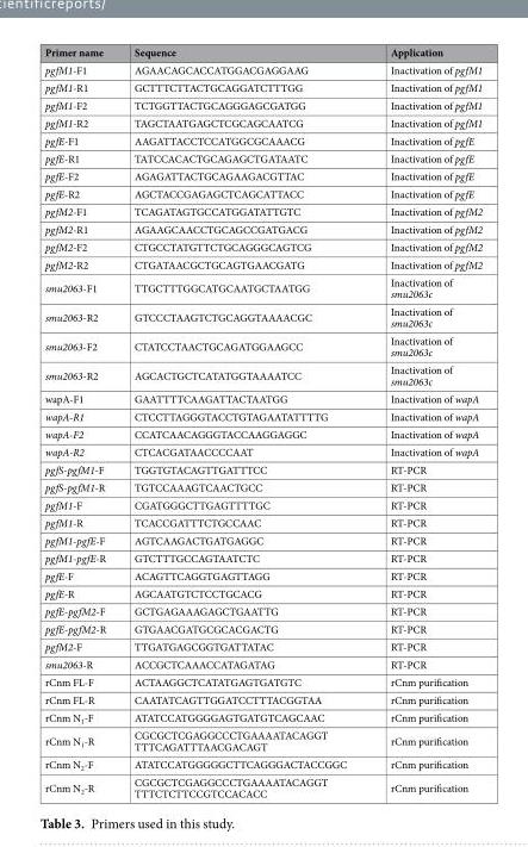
<table><thead><tr><td>Primer name</td><td>Sequence</td><td>Application</td></tr></thead><tbody><tr><td>pgfM1-F1</td><td>AGAACAGCACCATGGACGAGGAAG</td><td>Inactivation of pgfM1</td></tr><tr><td>pgfM1-R1</td><td>GCTTTCTTACTGCAGGATCTTTGG</td><td>Inactivation of pgfM1</td></tr><tr><td>pgfM1-F2</td><td>TCTGGTTACTGCAGGGAGCGATGG</td><td>Inactivation of pgfM1</td></tr><tr><td>pgfM1-R2</td><td>TAGCTAATGAGCTCGCAGCAATCG</td><td>Inactivation of pgfM1</td></tr><tr><td>pgfE-F1</td><td>AAGATTACCTCCATGGCGCAAACG</td><td>Inactivation of pgfE</td></tr><tr><td>pgfE-R1</td><td>TATCCACACTGCAGAGCTGATAATC</td><td>Inactivation of pgfE</td></tr><tr><td>pgfE-F2</td><td>AGAGATTACTGCAGAAGACGTTAC</td><td>Inactivation of pgfE</td></tr><tr><td>pgfE-R2</td><td>AGCTACCGAGAGCTCAGCATTACC</td><td>Inactivation of pgfE</td></tr><tr><td>pgfM2-F1</td><td>TCAGATAGTGCCATGGATATTGTC</td><td>Inactivation of pgfM2</td></tr><tr><td>pgfM2-R1</td><td>AGAAGCAACCTGCAGCCGATGACG</td><td>Inactivation of pgfM2</td></tr><tr><td>pgfM2-F2</td><td>CTGCCTATGTTCTGCAGGGCAGTCG</td><td>Inactivation of pgfM2</td></tr><tr><td>pgfM2-R2</td><td>CTGATAACGCTGCAGTGAACGATG</td><td>Inactivation of pgfM2</td></tr><tr><td>smu2063-F1</td><td>TTGCTTTGGCATGCAATGCTAATGG</td><td>Inactivation of smu2063c</td></tr><tr><td>smu2063-R2</td><td>GTCCCTAAGTCTGCAGGTAAAACGC</td><td>Inactivation of smu2063c</td></tr><tr><td>smu2063-F2</td><td>CTATCCTAACTGCAGATGGAAGCC</td><td>Inactivation of smu2063c</td></tr><tr><td>smu2063-R2</td><td>AGCACTGCTCATATGGTAAAATCC</td><td>Inactivation of smu2063c</td></tr><tr><td>wapA-F1</td><td>GAATTTTCAAGATTACTAATGG</td><td>Inactivation of wapA</td></tr><tr><td>wapA-R1</td><td>CTCCTTAGGGTACCTGTAGAATATTTTG</td><td>Inactivation of wapA</td></tr><tr><td>wapA-F2</td><td>CCATCAACAGGGTACCAAGGAGGC</td><td>Inactivation of wapA</td></tr><tr><td>wapA-R2</td><td>CTCACGATAACCCCAAT</td><td>Inactivation of wapA</td></tr><tr><td>pgfS-pgfM1-F</td><td>TGGTGTACAGTTGATTTCC</td><td>RT-PCR</td></tr><tr><td>pgfS-pgfM1-R</td><td>TGTCCAAAGTCAACTGCC</td><td>RT-PCR</td></tr><tr><td>pgfM1-F</td><td>CGATGGGCTTGAGTTTTGC</td><td>RT-PCR</td></tr><tr><td>pgfM1-R</td><td>TCACCGATTTCTGCCAAC</td><td>RT-PCR</td></tr><tr><td>pgfM1-pgfE-F</td><td>AGTCAAGACTGATGAGGC</td><td>RT-PCR</td></tr><tr><td>pgfM1-pgfE-R</td><td>GTCTTTGCCAGTAATCTC</td><td>RT-PCR</td></tr><tr><td>pgfE-F</td><td>ACAGTTCAGGTGAGTTAGG</td><td>RT-PCR</td></tr><tr><td>pgfE-R</td><td>AGCAATGTCTCCTGCACG</td><td>RT-PCR</td></tr><tr><td>pgfE-pgfM2-F</td><td>GCTGAGAAAGAGCTGAATTG</td><td>RT-PCR</td></tr><tr><td>pgfE-pgfM2-R</td><td>GTGAACGATGCGCACGACTG</td><td>RT-PCR</td></tr><tr><td>pgfM2-F</td><td>TTGATGAGCGGTGATTATAC</td><td>RT-PCR</td></tr><tr><td>smu2063-R</td><td>ACCGCTCAAACCATAGATAG</td><td>RT-PCR</td></tr><tr><td>rCnm FL-F</td><td>ACTAAGGCTCATATGAGTGATGTC</td><td>rCnm purification</td></tr><tr><td>rCnm FL-R</td><td>CAATATCAGTTGGATCCTTTACGGTAA</td><td>rCnm purification</td></tr><tr><td>rCnm N<sub>1</sub>-F</td><td>ATATCCATGGGGAGTGATGTCAGCAAC</td><td>rCnm purification</td></tr><tr><td>rCnm N<sub>1</sub>-R</td><td>CGCGCTCGAGGCCCTGAAAATACAGGT TTTCAGATTTAACGACAGT</td><td>rCnm purification</td></tr><tr><td>rCnm N<sub>2</sub>-F</td><td>ATATCCATGGGGGCTTCAGGGACTACCGGC</td><td>rCnm purification</td></tr><tr><td>rCnm N<sub>2</sub>-R</td><td>CGCGCTCGAGGCCCTGAAAATACAGGT TTTCTCTTCCGTCCACACC</td><td>rCnm purification</td></tr></tbody></table>